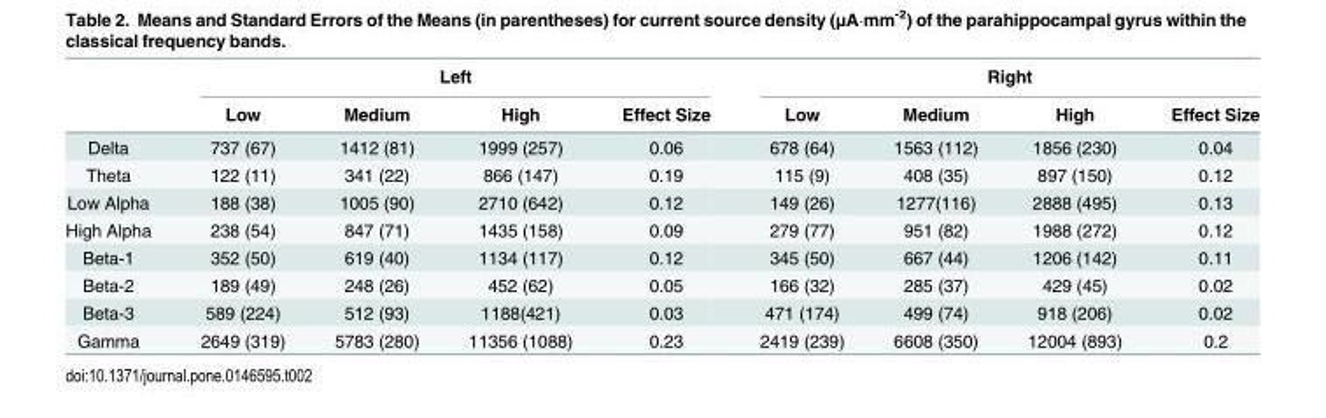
<table><thead><tr><td rowspan="2"></td><td colspan="4">Left</td><td colspan="4">Right</td></tr><tr><td>Low</td><td>Medium</td><td>High</td><td>Effect Size</td><td>Low</td><td>Medium</td><td>High</td><td>Effect Size</td></tr></thead><tbody><tr><td>Delta</td><td>737 (67)</td><td>1412 (81)</td><td>1999 (257)</td><td>0.06</td><td>678 (64)</td><td>1563 (112)</td><td>1856 (230)</td><td>0.04</td></tr><tr><td>Theta</td><td>122 (11)</td><td>341 (22)</td><td>866 (147)</td><td>0.19</td><td>115 (9)</td><td>408 (35)</td><td>897 (150)</td><td>0.12</td></tr><tr><td>Low Alpha</td><td>188 (38)</td><td>1005 (90)</td><td>2710 (642)</td><td>0.12</td><td>149 (26)</td><td>1277(116)</td><td>2888 (495)</td><td>0.13</td></tr><tr><td>High Alpha</td><td>238 (54)</td><td>847 (71)</td><td>1435 (158)</td><td>0.09</td><td>279 (77)</td><td>951 (82)</td><td>1988 (272)</td><td>0.12</td></tr><tr><td>Beta-1</td><td>352 (50)</td><td>619 (40)</td><td>1134 (117)</td><td>0.12</td><td>345 (50)</td><td>667 (44)</td><td>1206 (142)</td><td>0.11</td></tr><tr><td>Beta-2</td><td>189 (49)</td><td>248 (26)</td><td>452 (62)</td><td>0.05</td><td>166 (32)</td><td>285 (37)</td><td>429 (45)</td><td>0.02</td></tr><tr><td>Beta-3</td><td>589 (224)</td><td>512 (93)</td><td>1188(421)</td><td>0.03</td><td>471 (174)</td><td>499 (74)</td><td>918 (206)</td><td>0.02</td></tr><tr><td>Gamma</td><td>2649 (319)</td><td>5783 (280)</td><td>11356 (1088)</td><td>0.23</td><td>2419 (239)</td><td>6608 (350)</td><td>12004 (893)</td><td>0.2</td></tr></tbody></table>